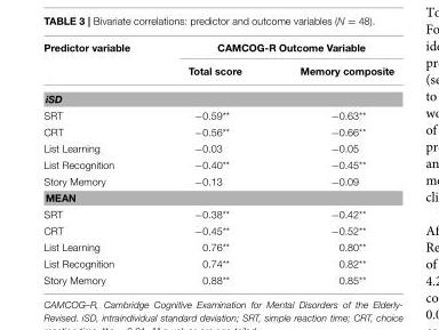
<table><thead><tr><td rowspan="2">Predictor variable</td><td colspan="2">CAMCOG-R Outcome Variable</td></tr><tr><td>Total score</td><td>Memory composite</td></tr></thead><tbody><tr><td colspan="3">iSD</td></tr><tr><td>SRT</td><td>−0.59**</td><td>−0.63**</td></tr><tr><td>CRT</td><td>−0.56**</td><td>−0.66**</td></tr><tr><td>List Learning</td><td>−0.03</td><td>−0.05</td></tr><tr><td>List Recognition</td><td>−0.40**</td><td>−0.45**</td></tr><tr><td>Story Memory</td><td>−0.13</td><td>−0.09</td></tr><tr><td colspan="3">MEAN</td></tr><tr><td>SRT</td><td>−0.38**</td><td>−0.42**</td></tr><tr><td>CRT</td><td>−0.45**</td><td>−0.52**</td></tr><tr><td>List Learning</td><td>0.76**</td><td>0.80**</td></tr><tr><td>List Recognition</td><td>0.74**</td><td>0.82**</td></tr><tr><td>Story Memory</td><td>0.88**</td><td>0.85**</td></tr></tbody></table>